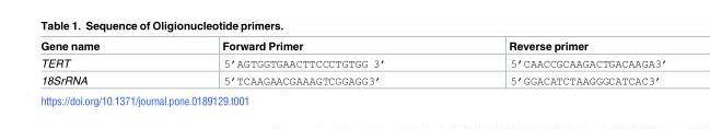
<table><thead><tr><td>Gene name</td><td>Forward Primer</td><td>Reverse primer</td></tr></thead><tbody><tr><td>TERT</td><td>5’AGTGGTGAACTTCCCTGTGG 3’</td><td>5’CAACCGCAAGACTGACAAGA3’</td></tr><tr><td>18SrRNA</td><td>5’TCAAGAACGAAAGTCGGAGG3’</td><td>5’GGACATCTAAGGGCATCAC3’</td></tr></tbody></table>